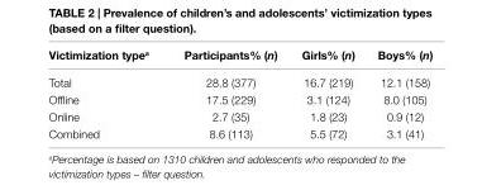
<table><thead><tr><td>Victimization type<sup>a</sup></td><td>Participants% (n)</td><td>girls% (n)</td><td>Boys% (n)</td></tr></thead><tbody><tr><td>Total</td><td>28.8 (377)</td><td>16.7 (219)</td><td>12.1 (158)</td></tr><tr><td>Offline</td><td>17.5 (229)</td><td>3.1 (124)</td><td>8.0 (105)</td></tr><tr><td>Online</td><td>2.7 (35)</td><td>1.8 (23)</td><td>0.9 (12)</td></tr><tr><td>Combined</td><td>8.6 (113)</td><td>5.5 (72)</td><td>3.1 (41)</td></tr></tbody></table>